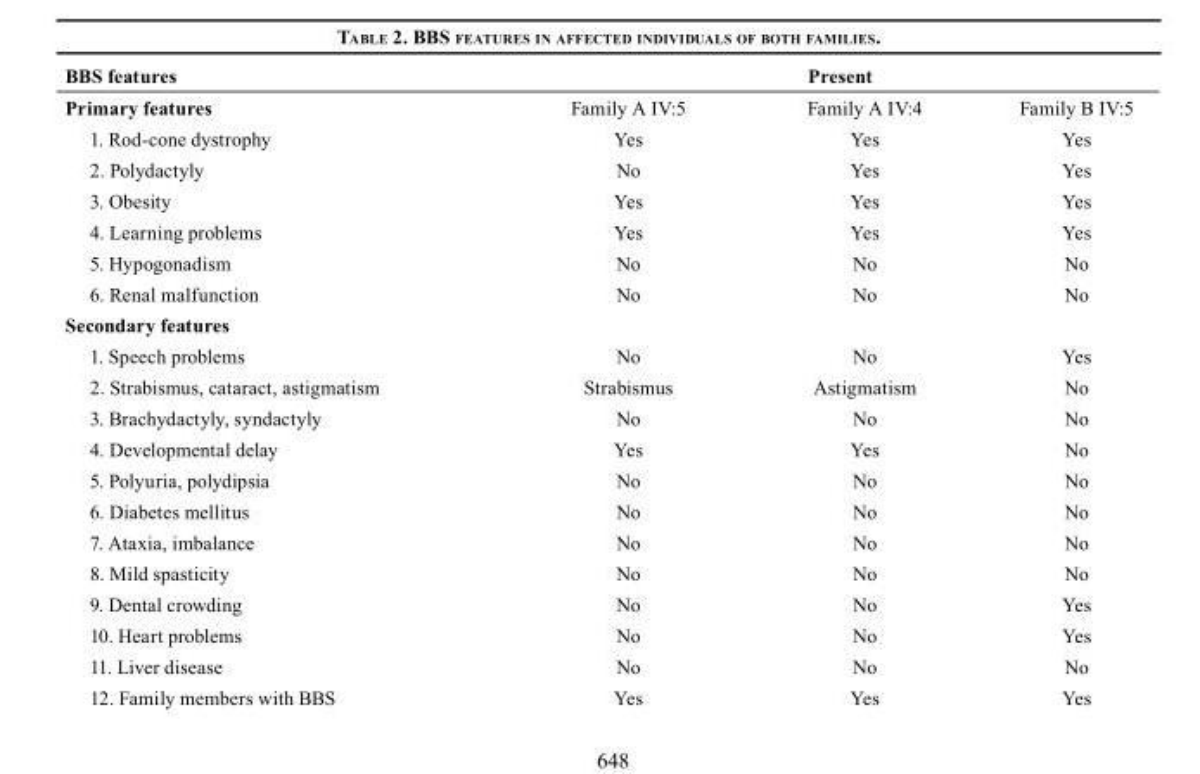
<table><thead><tr><td rowspan="2">BBS features Primary features</td><td colspan="3">Present</td></tr><tr><td>Family A IV:5</td><td>Family A IV:4</td><td>Family B IV:5</td></tr></thead><tbody><tr><td>1. Rod-cone dystrophy</td><td>Yes</td><td>Yes</td><td>Yes</td></tr><tr><td>2. Polydactyly</td><td>No</td><td>Yes</td><td>Yes</td></tr><tr><td>3. Obesity</td><td>Yes</td><td>Yes</td><td>Yes</td></tr><tr><td>4. Learning problems</td><td>Yes</td><td>Yes</td><td>Yes</td></tr><tr><td>5. Hypogonadism</td><td>No</td><td>No</td><td>No</td></tr><tr><td>6. Renal malfunction</td><td>No</td><td>No</td><td>No</td></tr><tr><td colspan="4">Secondary features</td></tr><tr><td>1. Speech problems</td><td>No</td><td>No</td><td>Yes</td></tr><tr><td>2. Strabismus, cataract, astigmatism</td><td>Strabismus</td><td>Astigmatism</td><td>No</td></tr><tr><td>3. Brachydactyly, syndactyly</td><td>No</td><td>No</td><td>No</td></tr><tr><td>4. Developmental delay</td><td>Yes</td><td>Yes</td><td>No</td></tr><tr><td>5. Polyuria, polydipsia</td><td>No</td><td>No</td><td>No</td></tr><tr><td>6. Diabetes mellitus</td><td>No</td><td>No</td><td>No</td></tr><tr><td>7. Ataxia, imbalance</td><td>No</td><td>No</td><td>No</td></tr><tr><td>8. Mild spasticity</td><td>No</td><td>No</td><td>No</td></tr><tr><td>9. Dental crowding</td><td>No</td><td>No</td><td>Yes</td></tr><tr><td>10. Heart problems</td><td>No</td><td>No</td><td>Yes</td></tr><tr><td>11. Liver disease</td><td>No</td><td>No</td><td>No</td></tr><tr><td>12. Family members with BBS</td><td>Yes</td><td>Yes</td><td>Yes</td></tr></tbody></table>